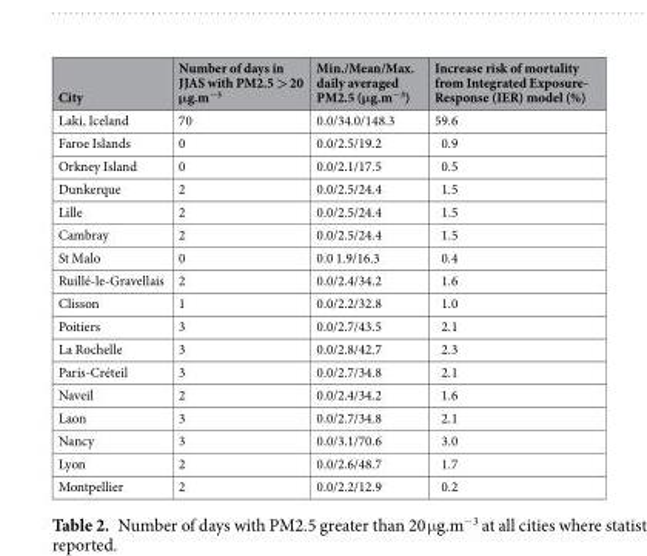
<table><thead><tr><td>City</td><td>Number of days in JJAS with PM2.5 &gt; 20 μg.m<sup>−3</sup></td><td>Min./Mean/Max. daily averaged PM2.5 (μg.m<sup>−3</sup>)</td><td>Increase risk of mortality from Integrated Exposure- Response (IER) model (%)</td></tr></thead><tbody><tr><td>Laki, Iceland</td><td>70</td><td>0.0/34.0/148.3</td><td>59.6</td></tr><tr><td>Faroe Islands</td><td>0</td><td>0.0/2.5/19.2</td><td>0.9</td></tr><tr><td>Orkney Island</td><td>0</td><td>0.0/2.1/17.5</td><td>0.5</td></tr><tr><td>Dunkerque</td><td>2</td><td>0.0/2.5/24.4</td><td>1.5</td></tr><tr><td>Lille</td><td>2</td><td>0.0/2.5/24.4</td><td>1.5</td></tr><tr><td>Cambray</td><td>2</td><td>0.0/2.5/24.4</td><td>1.5</td></tr><tr><td>St Malo</td><td>0</td><td>0.0 1.9/16.3</td><td>0.4</td></tr><tr><td>Ruillé-le-Gravellais</td><td>2</td><td>0.0/2.4/34.2</td><td>1.6</td></tr><tr><td>Clisson</td><td>1</td><td>0.0/2.2/32.8</td><td>1.0</td></tr><tr><td>Poitiers</td><td>3</td><td>0.0/2.7/43.5</td><td>2.1</td></tr><tr><td>La Rochelle</td><td>3</td><td>0.0/2.8/42.7</td><td>2.3</td></tr><tr><td>Paris-Créteil</td><td>3</td><td>0.0/2.7/34.8</td><td>2.1</td></tr><tr><td>Naveil</td><td>2</td><td>0.0/2.4/34.2</td><td>1.6</td></tr><tr><td>Laon</td><td>3</td><td>0.0/2.7/34.8</td><td>2.1</td></tr><tr><td>Nancy</td><td>3</td><td>0.0/3.1/70.6</td><td>3.0</td></tr><tr><td>Lyon</td><td>2</td><td>0.0/2.6/48.7</td><td>1.7</td></tr><tr><td>Montpellier</td><td>2</td><td>0.0/2.2/12.9</td><td>0.2</td></tr></tbody></table>